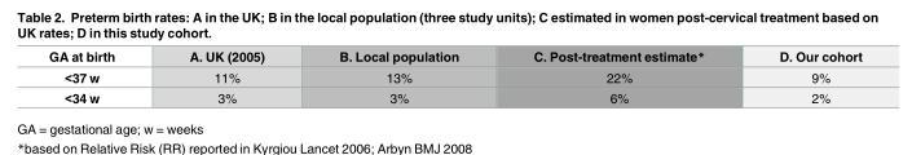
<table><thead><tr><td>GA at birth</td><td>A. UK (2005)</td><td>B. Local population</td><td>C. Post-treatment estimate*</td><td>D. Our cohort</td></tr></thead><tbody><tr><td>&lt;37 w</td><td>11%</td><td>13%</td><td>22%</td><td>9%</td></tr><tr><td>&lt;34 w</td><td>3%</td><td>3%</td><td>6%</td><td>2%</td></tr></tbody></table>